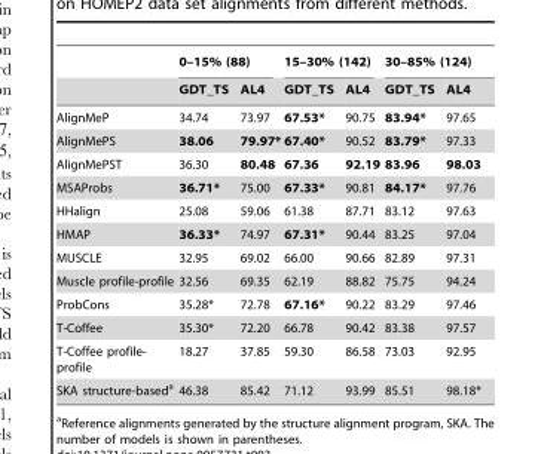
<table><thead><tr><td rowspan="2"></td><td colspan="2">0–15% (88)</td><td colspan="2">15–30% (142)</td><td colspan="2">30–85% (124)</td></tr><tr><td>GDT_TS</td><td>AL4</td><td>GDT_TS</td><td>AL4</td><td>GDT_TS</td><td>AL4</td></tr></thead><tbody><tr><td>AlignMeP</td><td>34.74</td><td>73.97</td><td>67.53*</td><td>90.75</td><td>83.94*</td><td>97.65</td></tr><tr><td>AlignMePS</td><td>38.06</td><td>79.97*</td><td>67.40*</td><td>90.52</td><td>83.79*</td><td>97.33</td></tr><tr><td>AlignMePST</td><td>36.30</td><td>80.48</td><td>67.36</td><td>92.19</td><td>83.96</td><td>98.03</td></tr><tr><td>MSAProbs</td><td>36.71*</td><td>75.00</td><td>67.33*</td><td>90.81</td><td>84.17*</td><td>97.76</td></tr><tr><td>HHalign</td><td>25.08</td><td>59.06</td><td>61.38</td><td>87.71</td><td>83.12</td><td>97.63</td></tr><tr><td>HMAP</td><td>36.33*</td><td>74.97</td><td>67.31*</td><td>90.44</td><td>83.25</td><td>97.04</td></tr><tr><td>MUSCLE</td><td>32.95</td><td>69.02</td><td>66.00</td><td>90.66</td><td>82.89</td><td>97.31</td></tr><tr><td>Muscle profile-profile</td><td>32.56</td><td>69.35</td><td>62.19</td><td>88.82</td><td>75.75</td><td>94.24</td></tr><tr><td>ProbCons</td><td>35.28*</td><td>72.78</td><td>67.16*</td><td>90.22</td><td>83.29</td><td>97.46</td></tr><tr><td>T-Coffee</td><td>35.30*</td><td>72.20</td><td>66.78</td><td>90.42</td><td>83.38</td><td>97.57</td></tr><tr><td>T-Coffee profile- profile</td><td>18.27</td><td>37.85</td><td>59.30</td><td>86.58</td><td>73.03</td><td>92.95</td></tr><tr><td>SKA structure-based<sup>a</sup></td><td>46.38</td><td>85.42</td><td>71.12</td><td>93.99</td><td>85.51</td><td>98.18*</td></tr></tbody></table>